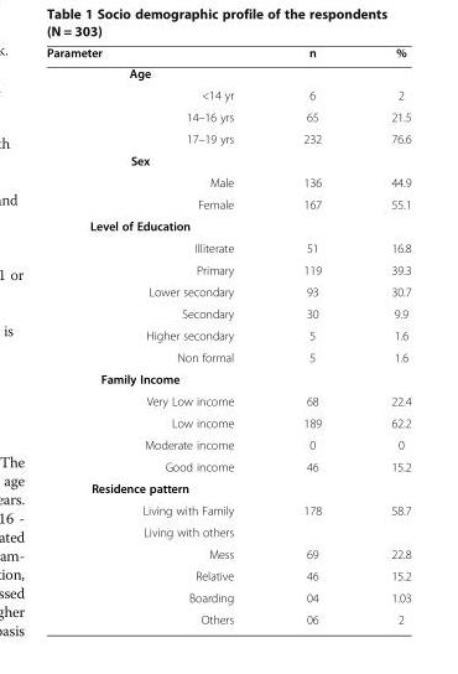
<table><thead><tr><td>Parameter</td><td>n</td><td>%</td></tr></thead><tbody><tr><td colspan="3">Age</td></tr><tr><td>&lt;14 yr</td><td>6</td><td>2</td></tr><tr><td>14–16 yrs</td><td>65</td><td>21.5</td></tr><tr><td>17–19 yrs</td><td>232</td><td>76.6</td></tr><tr><td colspan="3">Sex</td></tr><tr><td>Male</td><td>136</td><td>44.9</td></tr><tr><td>Female</td><td>167</td><td>55.1</td></tr><tr><td colspan="3">Level of Education</td></tr><tr><td>Illiterate</td><td>51</td><td>16.8</td></tr><tr><td>Primary</td><td>119</td><td>39.3</td></tr><tr><td>Lower secondary</td><td>93</td><td>30.7</td></tr><tr><td>Secondary</td><td>30</td><td>9.9</td></tr><tr><td>Higher secondary</td><td>5</td><td>1.6</td></tr><tr><td>Non formal</td><td>5</td><td>1.6</td></tr><tr><td colspan="3">Family Income</td></tr><tr><td>Very Low income</td><td>68</td><td>22.4</td></tr><tr><td>Low income</td><td>189</td><td>62.2</td></tr><tr><td>Moderate income</td><td>0</td><td>0</td></tr><tr><td>Good income</td><td>46</td><td>15.2</td></tr><tr><td colspan="3">Residence pattern</td></tr><tr><td>Living with Family</td><td>178</td><td>58.7</td></tr><tr><td colspan="3">Living with others</td></tr><tr><td>Mess</td><td>69</td><td>22.8</td></tr><tr><td>Relative</td><td>46</td><td>15.2</td></tr><tr><td>Boarding</td><td>04</td><td>1.03</td></tr><tr><td>Others</td><td>06</td><td>2</td></tr></tbody></table>